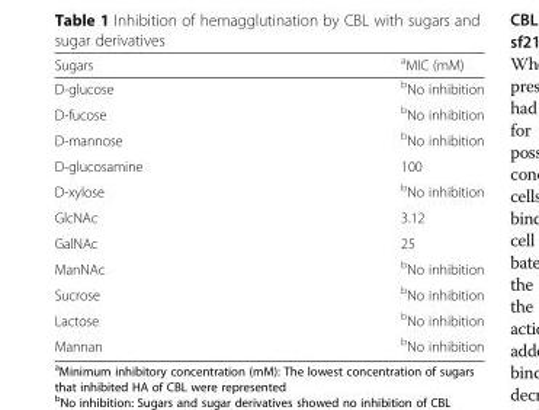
<table><thead><tr><td>Sugars</td><td><sup>a</sup>MIC (mM)</td></tr></thead><tbody><tr><td>D-glucose</td><td><sup>b</sup>No inhibition</td></tr><tr><td>D-fucose</td><td><sup>b</sup>No inhibition</td></tr><tr><td>D-mannose</td><td><sup>b</sup>No inhibition</td></tr><tr><td>D-glucosamine</td><td>100</td></tr><tr><td>D-xylose</td><td><sup>b</sup>No inhibition</td></tr><tr><td>GlcNAc</td><td>3.12</td></tr><tr><td>GalNAc</td><td>25</td></tr><tr><td>ManNAc</td><td><sup>b</sup>No inhibition</td></tr><tr><td>Sucrose</td><td><sup>b</sup>No inhibition</td></tr><tr><td>Lactose</td><td><sup>b</sup>No inhibition</td></tr><tr><td>Mannan</td><td><sup>b</sup>No inhibition</td></tr></tbody></table>